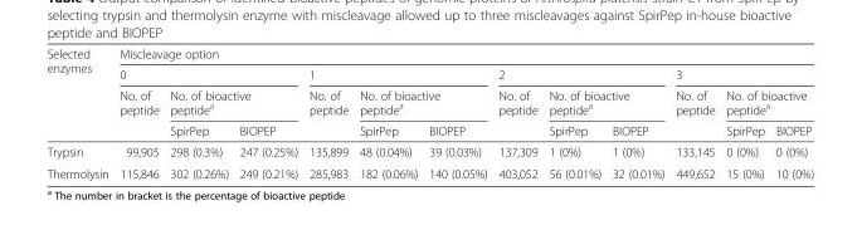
<table><thead><tr><td rowspan="4">Selected enzymes</td><td colspan="12">Miscleavage option</td></tr><tr><td colspan="3">0</td><td colspan="3">1</td><td colspan="3">2</td><td colspan="3">3</td></tr><tr><td rowspan="2">No. of peptide</td><td colspan="2">No. of bioactive peptide<sup>a</sup></td><td rowspan="2">No. of peptide</td><td colspan="2">No. of bioactive peptide<sup>a</sup></td><td rowspan="2">No. of peptide</td><td colspan="2">No. of bioactive peptide<sup>a</sup></td><td rowspan="2">No. of peptide</td><td colspan="2">No. of bioactive peptide<sup>a</sup></td></tr><tr><td>SpirPep</td><td>BIOPEP</td><td>SpirPep</td><td>BIOPEP</td><td>SpirPep</td><td>BIOPEP</td><td>SpirPep</td><td>BIOPEP</td></tr></thead><tbody><tr><td>Trypsin</td><td>99,905</td><td>298 (0.3%)</td><td>247 (0.25%)</td><td>135,899</td><td>48 (0.04%)</td><td>39 (0.03%)</td><td>137,309</td><td>1 (0%)</td><td>1 (0%)</td><td>133,145</td><td>0 (0%)</td><td>0 (0%)</td></tr><tr><td>Thermolysin</td><td>115,846</td><td>302 (0.26%)</td><td>249 (0.21%)</td><td>285,983</td><td>182 (0.06%)</td><td>140 (0.05%)</td><td>403,052</td><td>56 (0.01%)</td><td>32 (0.01%)</td><td>449,652</td><td>15 (0%)</td><td>10 (0%)</td></tr></tbody></table>